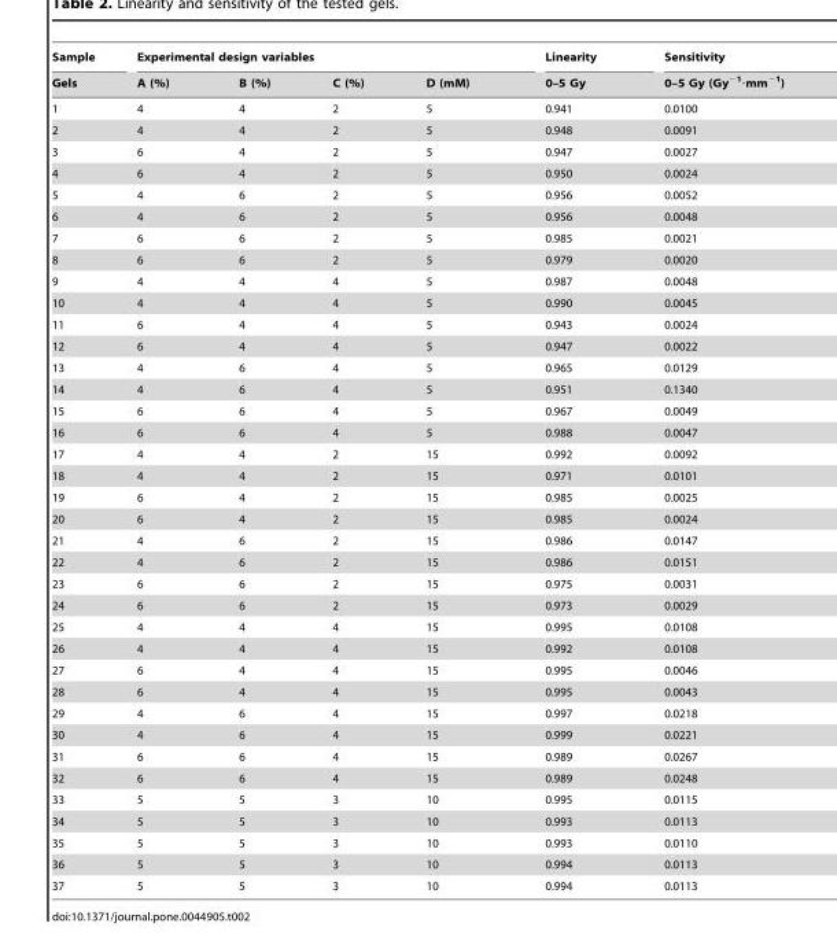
<table><thead><tr><td rowspan="2">Sample Gels</td><td colspan="4">Experimental design variables</td><td rowspan="2">Linearity 0–5 Gy</td><td rowspan="2">Sensitivity 0–5 Gy (Gy<sup>−1</sup>⋅mm<sup>−1</sup>)</td></tr><tr><td>A (%)</td><td>B (%)</td><td>C (%)</td><td>D (mM)</td></tr></thead><tbody><tr><td>1</td><td>4</td><td>4</td><td>2</td><td>5</td><td>0.941</td><td>0.0100</td></tr><tr><td>2</td><td>4</td><td>4</td><td>2</td><td>5</td><td>0.948</td><td>0.0091</td></tr><tr><td>3</td><td>6</td><td>4</td><td>2</td><td>5</td><td>0.947</td><td>0.0027</td></tr><tr><td>4</td><td>6</td><td>4</td><td>2</td><td>5</td><td>0.950</td><td>0.0024</td></tr><tr><td>5</td><td>4</td><td>6</td><td>2</td><td>5</td><td>0.956</td><td>0.0052</td></tr><tr><td>6</td><td>4</td><td>6</td><td>2</td><td>5</td><td>0.956</td><td>0.0048</td></tr><tr><td>7</td><td>6</td><td>6</td><td>2</td><td>5</td><td>0.985</td><td>0.0021</td></tr><tr><td>8</td><td>6</td><td>6</td><td>2</td><td>5</td><td>0.979</td><td>0.0020</td></tr><tr><td>9</td><td>4</td><td>4</td><td>4</td><td>5</td><td>0.987</td><td>0.0048</td></tr><tr><td>10</td><td>4</td><td>4</td><td>4</td><td>5</td><td>0.990</td><td>0.0045</td></tr><tr><td>11</td><td>6</td><td>4</td><td>4</td><td>5</td><td>0.943</td><td>0.0024</td></tr><tr><td>12</td><td>6</td><td>4</td><td>4</td><td>5</td><td>0.947</td><td>0.0022</td></tr><tr><td>13</td><td>4</td><td>6</td><td>4</td><td>5</td><td>0.965</td><td>0.0129</td></tr><tr><td>14</td><td>4</td><td>6</td><td>4</td><td>5</td><td>0.951</td><td>0.1340</td></tr><tr><td>15</td><td>6</td><td>6</td><td>4</td><td>5</td><td>0.967</td><td>0.0049</td></tr><tr><td>16</td><td>6</td><td>6</td><td>4</td><td>5</td><td>0.988</td><td>0.0047</td></tr><tr><td>17</td><td>4</td><td>4</td><td>2</td><td>15</td><td>0.992</td><td>0.0092</td></tr><tr><td>18</td><td>4</td><td>4</td><td>2</td><td>15</td><td>0.971</td><td>0.0101</td></tr><tr><td>19</td><td>6</td><td>4</td><td>2</td><td>15</td><td>0.985</td><td>0.0025</td></tr><tr><td>20</td><td>6</td><td>4</td><td>2</td><td>15</td><td>0.985</td><td>0.0024</td></tr><tr><td>21</td><td>4</td><td>6</td><td>2</td><td>15</td><td>0.986</td><td>0.0147</td></tr><tr><td>22</td><td>4</td><td>6</td><td>2</td><td>15</td><td>0.986</td><td>0.0151</td></tr><tr><td>23</td><td>6</td><td>6</td><td>2</td><td>15</td><td>0.975</td><td>0.0031</td></tr><tr><td>24</td><td>6</td><td>6</td><td>2</td><td>15</td><td>0.973</td><td>0.0029</td></tr><tr><td>25</td><td>4</td><td>4</td><td>4</td><td>15</td><td>0.995</td><td>0.0108</td></tr><tr><td>26</td><td>4</td><td>4</td><td>4</td><td>15</td><td>0.992</td><td>0.0108</td></tr><tr><td>27</td><td>6</td><td>4</td><td>4</td><td>15</td><td>0.995</td><td>0.0046</td></tr><tr><td>28</td><td>6</td><td>4</td><td>4</td><td>15</td><td>0.995</td><td>0.0043</td></tr><tr><td>29</td><td>4</td><td>6</td><td>4</td><td>15</td><td>0.997</td><td>0.0218</td></tr><tr><td>30</td><td>4</td><td>6</td><td>4</td><td>15</td><td>0.999</td><td>0.0221</td></tr><tr><td>31</td><td>6</td><td>6</td><td>4</td><td>15</td><td>0.989</td><td>0.0267</td></tr><tr><td>32</td><td>6</td><td>6</td><td>4</td><td>15</td><td>0.989</td><td>0.0248</td></tr><tr><td>33</td><td>5</td><td>5</td><td>3</td><td>10</td><td>0.995</td><td>0.0115</td></tr><tr><td>34</td><td>5</td><td>5</td><td>3</td><td>10</td><td>0.993</td><td>0.0113</td></tr><tr><td>35</td><td>5</td><td>5</td><td>3</td><td>10</td><td>0.993</td><td>0.0110</td></tr><tr><td>36</td><td>5</td><td>5</td><td>3</td><td>10</td><td>0.994</td><td>0.0113</td></tr><tr><td>37</td><td>5</td><td>5</td><td>3</td><td>10</td><td>0.994</td><td>0.0113</td></tr></tbody></table>